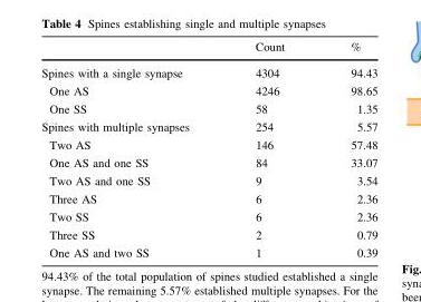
<table><thead><tr><td></td><td>Count</td><td>%</td></tr></thead><tbody><tr><td>Spines with a single synapse</td><td>4304</td><td>94.43</td></tr><tr><td>One AS</td><td>4246</td><td>98.65</td></tr><tr><td>One SS</td><td>58</td><td>1.35</td></tr><tr><td>Spines with multiple synapses</td><td>254</td><td>5.57</td></tr><tr><td>Two AS</td><td>146</td><td>57.48</td></tr><tr><td>One AS and one SS</td><td>84</td><td>33.07</td></tr><tr><td>Two AS and one SS</td><td>9</td><td>3.54</td></tr><tr><td>Three AS</td><td>6</td><td>2.36</td></tr><tr><td>Two SS</td><td>6</td><td>2.36</td></tr><tr><td>Three SS</td><td>2</td><td>0.79</td></tr><tr><td>One AS and two SS</td><td>1</td><td>0.39</td></tr></tbody></table>